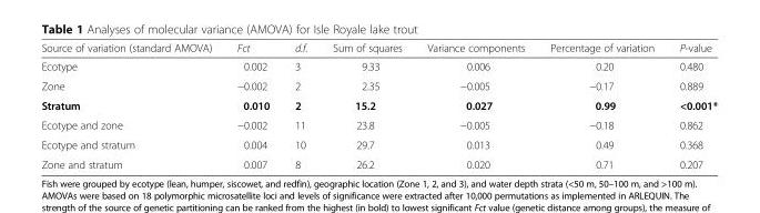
<table><thead><tr><td>Source of variation (standard AMOVA)</td><td>Fct</td><td>d.f.</td><td>Sum of squares</td><td>Variance components</td><td>Percentage of variation</td><td>P-value</td></tr></thead><tbody><tr><td>Ecotype</td><td>0.002</td><td>3</td><td>9.33</td><td>0.006</td><td>0.20</td><td>0.480</td></tr><tr><td>Zone</td><td>−0.002</td><td>2</td><td>2.35</td><td>−0.005</td><td>−0.17</td><td>0.889</td></tr><tr><td>Stratum</td><td>0.010</td><td>2</td><td>15.2</td><td>0.027</td><td>0.99</td><td>&lt;0.001*</td></tr><tr><td>Ecotype and zone</td><td>−0.002</td><td>11</td><td>23.8</td><td>−0.005</td><td>−0.18</td><td>0.862</td></tr><tr><td>Ecotype and stratum</td><td>0.004</td><td>10</td><td>29.7</td><td>0.013</td><td>0.49</td><td>0.368</td></tr><tr><td>Zone and stratum</td><td>0.007</td><td>8</td><td>26.2</td><td>0.020</td><td>0.71</td><td>0.207</td></tr></tbody></table>